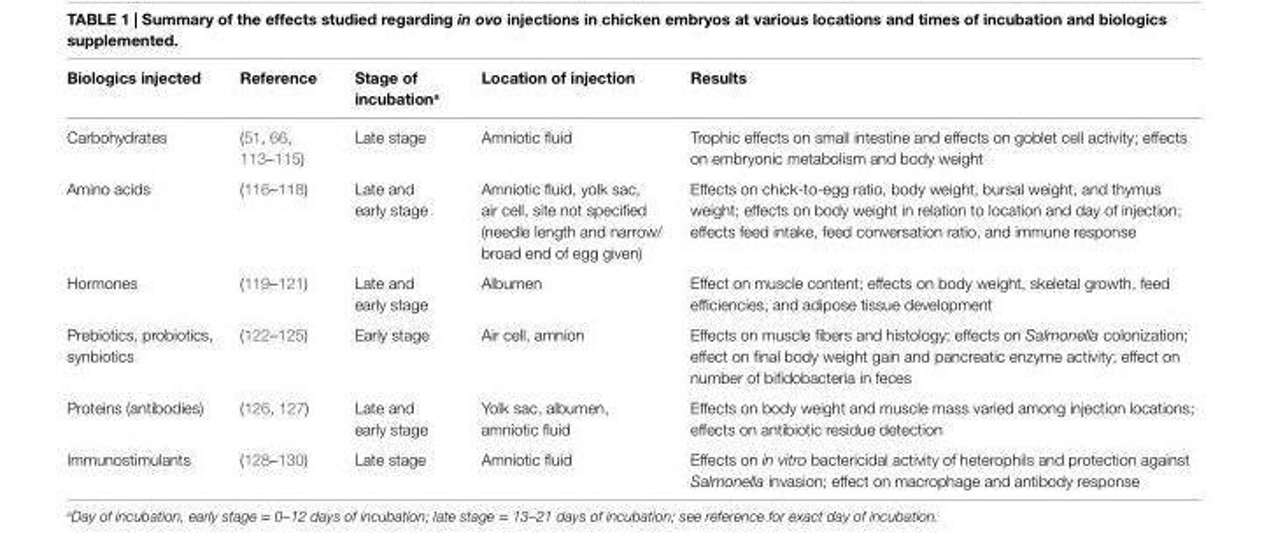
<table><thead><tr><td>Biologics injected</td><td>Reference</td><td>Stage of incubation<sup>a</sup></td><td>Location of injection</td><td>Results</td></tr></thead><tbody><tr><td>Carbohydrates</td><td>(51, 66, 113–115)</td><td>Late stage</td><td>Amniotic fluid</td><td>Trophic effects on small intestine and effects on goblet cell activity; effects on embryonic metabolism and body weight</td></tr><tr><td>Amino acids</td><td>(116–118)</td><td>Late and early stage</td><td>Amniotic fluid, yolk sac, air cell, site not specified (needle length and narrow/ broad end of egg given)</td><td>Effects on chick-to-egg ratio, body weight, bursal weight, and thymus weight; effects on body weight in relation to location and day of injection; effects feed intake, feed conversation ratio, and immune response</td></tr><tr><td>Hormones</td><td>(119–121)</td><td>Late and early stage</td><td>Albumen</td><td>Effect on muscle content; effects on body weight, skeletal growth, feed efficiencies, and adipose tissue development</td></tr><tr><td>Prebiotics, probiotics, synbiotics</td><td>(122–125)</td><td>Early stage</td><td>Air cell, amnion</td><td>Effects on muscle fibers and histology; effects on Salmonella colonization; effect on final body weight gain and pancreatic enzyme activity; effect on number of bifidobacteria in feces</td></tr><tr><td>Proteins (antibodies)</td><td>(126, 127)</td><td>Late and early stage</td><td>Yolk sac, albumen, amniotic fluid</td><td>Effects on body weight and muscle mass varied among injection locations; effects on antibiotic residue detection</td></tr><tr><td>Immunostimulants</td><td>(128–130)</td><td>Late stage</td><td>Amniotic fluid</td><td>Effects on in vitro bactericidal activity of heterophils and protection against Salmonella invasion; effect on macrophage and antibody response</td></tr></tbody></table>